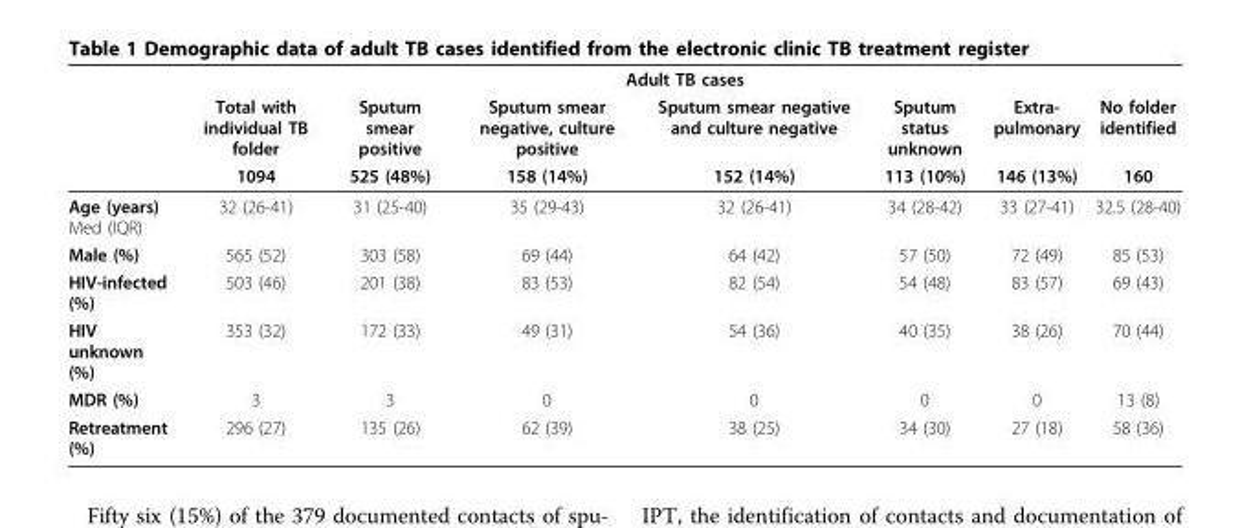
<table><thead><tr><td rowspan="3"></td><td colspan="7">Adult TB cases</td></tr><tr><td rowspan="2">Total with individual TB folder 1094</td><td rowspan="2">Sputum smear positive 525 (48%)</td><td rowspan="2">Sputum smear negative, culture positive 158 (14%)</td><td rowspan="2">Sputum smear negative and culture negative 152 (14%)</td><td rowspan="2">Sputum status unknown 113 (10%)</td><td rowspan="2">Extra- pulmonary 146 (13%)</td><td rowspan="2">No folder identified 160</td></tr><tr></tr></thead><tbody><tr><td>Age (years) Med (IQR)</td><td>32 (26-41)</td><td>31 (25-40)</td><td>35 (29-43)</td><td>32 (26-41)</td><td>34 (28-42)</td><td>33 (27-41)</td><td>32.5 (28-40)</td></tr><tr><td>Male (%)</td><td>565 (52)</td><td>303 (58)</td><td>69 (44)</td><td>64 (42)</td><td>57 (50)</td><td>72 (49)</td><td>85 (53)</td></tr><tr><td>HIV-infected (%)</td><td>503 (46)</td><td>201 (38)</td><td>83 (53)</td><td>82 (54)</td><td>54 (48)</td><td>83 (57)</td><td>69 (43)</td></tr><tr><td>HIV unknown (%)</td><td>353 (32)</td><td>172 (33)</td><td>49 (31)</td><td>54 (36)</td><td>40 (35)</td><td>38 (26)</td><td>70 (44)</td></tr><tr><td>MDR (%)</td><td>3</td><td>3</td><td>0</td><td>0</td><td>0</td><td>0</td><td>13 (8)</td></tr><tr><td>Retreatment (%)</td><td>296 (27)</td><td>135 (26)</td><td>62 (39)</td><td>38 (25)</td><td>34 (30)</td><td>27 (18)</td><td>58 (36)</td></tr></tbody></table>